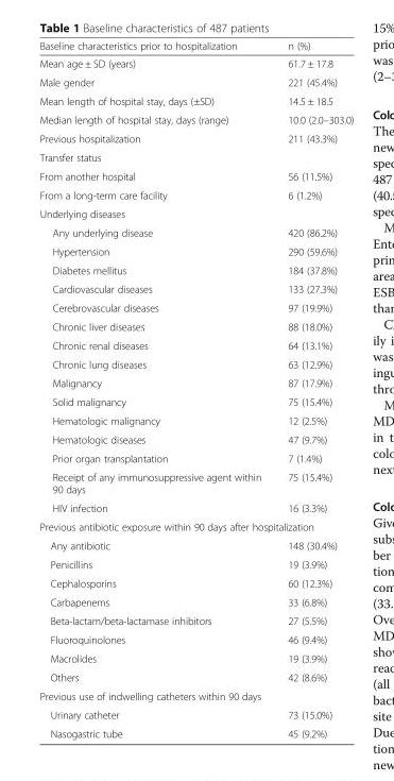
<table><thead><tr><td>Baseline characteristics prior to hospitalization</td><td>n (%)</td></tr></thead><tbody><tr><td>Mean age ± SD (years)</td><td>61.7 ± 17.8</td></tr><tr><td>Male gender</td><td>221 (45.4%)</td></tr><tr><td>Mean length of hospital stay, days (±SD)</td><td>14.5 ± 18.5</td></tr><tr><td>Median length of hospital stay, days (range)</td><td>10.0 (2.0–303.0)</td></tr><tr><td>Previous hospitalization</td><td>211 (43.3%)</td></tr><tr><td colspan="2">Transfer status</td></tr><tr><td>From another hospital</td><td>56 (11.5%)</td></tr><tr><td>From a long-term care facility</td><td>6 (1.2%)</td></tr><tr><td colspan="2">Underlying diseases</td></tr><tr><td>Any underlying disease</td><td>420 (86.2%)</td></tr><tr><td>Hypertension</td><td>290 (59.6%)</td></tr><tr><td>Diabetes mellitus</td><td>184 (37.8%)</td></tr><tr><td>Cardiovascular diseases</td><td>133 (27.3%)</td></tr><tr><td>Cerebrovascular diseases</td><td>97 (19.9%)</td></tr><tr><td>Chronic liver diseases</td><td>88 (18.0%)</td></tr><tr><td>Chronic renal diseases</td><td>64 (13.1%)</td></tr><tr><td>Chronic lung diseases</td><td>63 (12.9%)</td></tr><tr><td>Malignancy</td><td>87 (17.9%)</td></tr><tr><td>Solid malignancy</td><td>75 (15.4%)</td></tr><tr><td>Hematologic malignancy</td><td>12 (2.5%)</td></tr><tr><td>Hematologic diseases</td><td>47 (9.7%)</td></tr><tr><td>Prior organ transplantation</td><td>7 (1.4%)</td></tr><tr><td>Receipt of any immunosuppressive agent within 90 days</td><td>75 (15.4%)</td></tr><tr><td>HIV infection</td><td>16 (3.3%)</td></tr><tr><td colspan="2">Previous antibiotic exposure within 90 days after hospitalization</td></tr><tr><td>Any antibiotic</td><td>148 (30.4%)</td></tr><tr><td>Penicillins</td><td>19 (3.9%)</td></tr><tr><td>Cephalosporins</td><td>60 (12.3%)</td></tr><tr><td>Carbapenems</td><td>33 (6.8%)</td></tr><tr><td>Beta-lactam/beta-lactamase inhibitors</td><td>27 (5.5%)</td></tr><tr><td>Fluoroquinolones</td><td>46 (9.4%)</td></tr><tr><td>Macrolides</td><td>19 (3.9%)</td></tr><tr><td>Others</td><td>42 (8.6%)</td></tr><tr><td colspan="2">Previous use of indwelling catheters within 90 days</td></tr><tr><td>Urinary catheter</td><td>73 (15.0%)</td></tr><tr><td>Nasogastric tube</td><td>45 (9.2%)</td></tr></tbody></table>